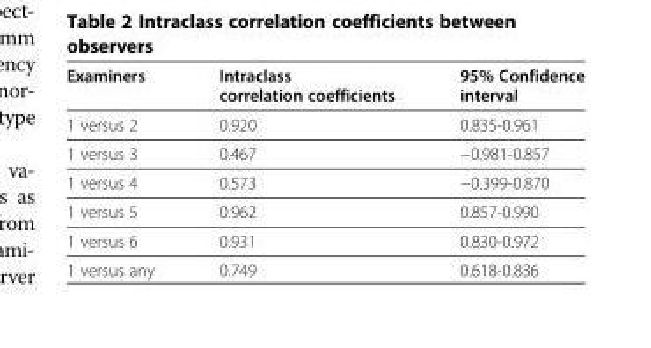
<table><thead><tr><td>Examiners</td><td>Intraclass correlation coefficients</td><td>95% Confidence interval</td></tr></thead><tbody><tr><td>1 versus 2</td><td>0.920</td><td>0.835-0.961</td></tr><tr><td>1 versus 3</td><td>0.467</td><td>−0.981-0.857</td></tr><tr><td>1 versus 4</td><td>0.573</td><td>−0.399-0.870</td></tr><tr><td>1 versus 5</td><td>0.962</td><td>0.857-0.990</td></tr><tr><td>1 versus 6</td><td>0.931</td><td>0.830-0.972</td></tr><tr><td>1 versus any</td><td>0.749</td><td>0.618-0.836</td></tr></tbody></table>